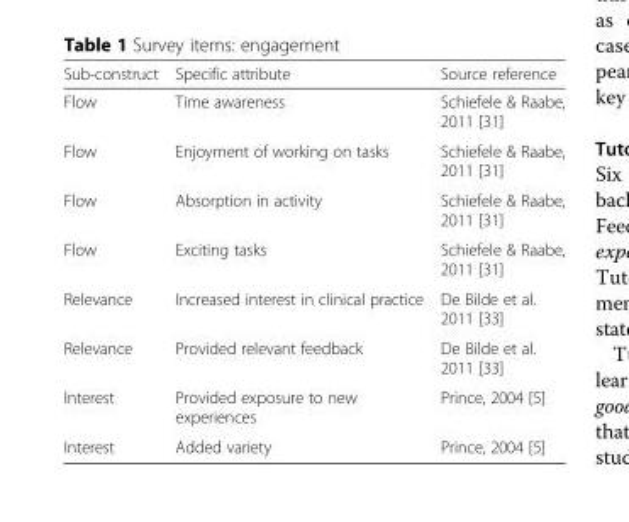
<table><thead><tr><td>Sub-construct</td><td>Specific attribute</td><td>Source reference</td></tr></thead><tbody><tr><td>Flow</td><td>Time awareness</td><td>Schiefele &amp; Raabe, 2011 [31]</td></tr><tr><td>Flow</td><td>Enjoyment of working on tasks</td><td>Schiefele &amp; Raabe, 2011 [31]</td></tr><tr><td>Flow</td><td>Absorption in activity</td><td>Schiefele &amp; Raabe, 2011 [31]</td></tr><tr><td>Flow</td><td>Exciting tasks</td><td>Schiefele &amp; Raabe, 2011 [31]</td></tr><tr><td>Relevance</td><td>Increased interest in clinical practice</td><td>De Bilde et al. 2011 [33]</td></tr><tr><td>Relevance</td><td>Provided relevant feedback</td><td>De Bilde et al. 2011 [33]</td></tr><tr><td>Interest</td><td>Provided exposure to new experiences</td><td>Prince, 2004 [5]</td></tr><tr><td>Interest</td><td>Added variety</td><td>Prince, 2004 [5]</td></tr></tbody></table>